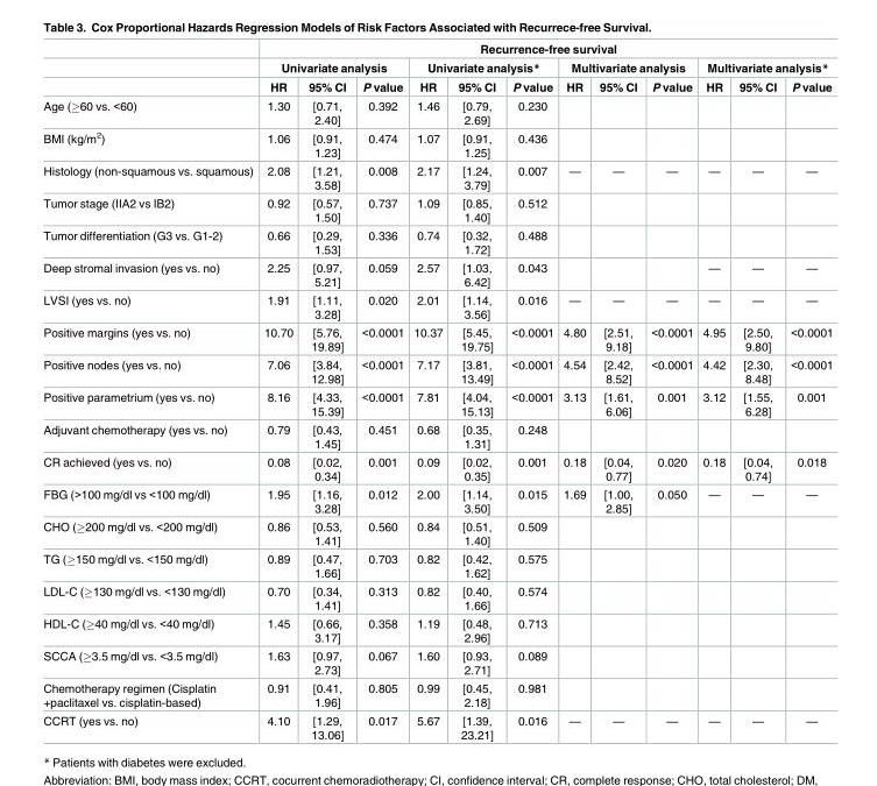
<table><thead><tr><td rowspan="3"></td><td colspan="12">Recurrence-free survival</td></tr><tr><td colspan="3">Univariate analysis</td><td colspan="3">Univariate analysis*</td><td colspan="3">Multivariate analysis</td><td colspan="3">Multivariate analysis*</td></tr><tr><td>HR</td><td>95% CI</td><td>P value</td><td>HR</td><td>95% CI</td><td>P value</td><td>HR</td><td>95% CI</td><td>P value</td><td>HR</td><td>95% CI</td><td>P value</td></tr></thead><tbody><tr><td>Age (≥60 vs. &lt;60)</td><td>1.30</td><td>[0.71, 2.40]</td><td>0.392</td><td>1.46</td><td>[0.79, 2.69]</td><td>0.230</td><td></td><td></td><td></td><td></td><td></td><td></td></tr><tr><td>BMI (kg/m<sup>2</sup>)</td><td>1.06</td><td>[0.91, 1.23]</td><td>0.474</td><td>1.07</td><td>[0.91, 1.25]</td><td>0.436</td><td></td><td></td><td></td><td></td><td></td><td></td></tr><tr><td>Histology (non-squamous vs. squamous)</td><td>2.08</td><td>[1.21, 3.58]</td><td>0.008</td><td>2.17</td><td>[1.24, 3.79]</td><td>0.007</td><td>—</td><td>—</td><td>—</td><td>—</td><td>—</td><td>—</td></tr><tr><td>Tumor stage (IIA2 vs IB2)</td><td>0.92</td><td>[0.57, 1.50]</td><td>0.737</td><td>1.09</td><td>[0.85, 1.40]</td><td>0.512</td><td></td><td></td><td></td><td></td><td></td><td></td></tr><tr><td>Tumor differentiation (G3 vs. G1-2)</td><td>0.66</td><td>[0.29, 1.53]</td><td>0.336</td><td>0.74</td><td>[0.32, 1.72]</td><td>0.488</td><td></td><td></td><td></td><td></td><td></td><td></td></tr><tr><td>Deep stromal invasion (yes vs. no)</td><td>2.25</td><td>[0.97, 5.21]</td><td>0.059</td><td>2.57</td><td>[1.03, 6.42]</td><td>0.043</td><td></td><td></td><td></td><td>—</td><td>—</td><td>—</td></tr><tr><td>LVSI (yes vs. no)</td><td>1.91</td><td>[1.11, 3.28]</td><td>0.020</td><td>2.01</td><td>[1.14, 3.56]</td><td>0.016</td><td>—</td><td>—</td><td>—</td><td>—</td><td>—</td><td>—</td></tr><tr><td>Positive margins (yes vs. no)</td><td>10.70</td><td>[5.76, 19.89]</td><td>&lt;0.0001</td><td>10.37</td><td>[5.45, 19.75]</td><td>&lt;0.0001</td><td>4.80</td><td>[2.51, 9.18]</td><td>&lt;0.0001</td><td>4.95</td><td>[2.50, 9.80]</td><td>&lt;0.0001</td></tr><tr><td>Positive nodes (yes vs. no)</td><td>7.06</td><td>[3.84, 12.98]</td><td>&lt;0.0001</td><td>7.17</td><td>[3.81, 13.49]</td><td>&lt;0.0001</td><td>4.54</td><td>[2.42, 8.52]</td><td>&lt;0.0001</td><td>4.42</td><td>[2.30, 8.48]</td><td>&lt;0.0001</td></tr><tr><td>Positive parametrium (yes vs. no)</td><td>8.16</td><td>[4.33, 15.39]</td><td>&lt;0.0001</td><td>7.81</td><td>[4.04, 15.13]</td><td>&lt;0.0001</td><td>3.13</td><td>[1.61, 6.06]</td><td>0.001</td><td>3.12</td><td>[1.55, 6.28]</td><td>0.001</td></tr><tr><td>Adjuvant chemotherapy (yes vs. no)</td><td>0.79</td><td>[0.43, 1.45]</td><td>0.451</td><td>0.68</td><td>[0.35, 1.31]</td><td>0.248</td><td></td><td></td><td></td><td></td><td></td><td></td></tr><tr><td>CR achieved (yes vs. no)</td><td>0.08</td><td>[0.02, 0.34]</td><td>0.001</td><td>0.09</td><td>[0.02, 0.35]</td><td>0.001</td><td>0.18</td><td>[0.04, 0.77]</td><td>0.020</td><td>0.18</td><td>[0.04, 0.74]</td><td>0.018</td></tr><tr><td>FBG (&gt;100 mg/dl vs &lt;100 mg/dl)</td><td>1.95</td><td>[1.16, 3.28]</td><td>0.012</td><td>2.00</td><td>[1.14, 3.50]</td><td>0.015</td><td>1.69</td><td>[1.00, 2.85]</td><td>0.050</td><td>—</td><td>—</td><td>—</td></tr><tr><td>CHO (≥200 mg/dl vs. &lt;200 mg/dl)</td><td>0.86</td><td>[0.53, 1.41]</td><td>0.560</td><td>0.84</td><td>[0.51, 1.40]</td><td>0.509</td><td></td><td></td><td></td><td></td><td></td><td></td></tr><tr><td>TG (≥150 mg/dl vs. &lt;150 mg/dl)</td><td>0.89</td><td>[0.47, 1.66]</td><td>0.703</td><td>0.82</td><td>[0.42, 1.62]</td><td>0.575</td><td></td><td></td><td></td><td></td><td></td><td></td></tr><tr><td>LDL-C (≥130 mg/dl vs. &lt;130 mg/dl)</td><td>0.70</td><td>[0.34, 1.41]</td><td>0.313</td><td>0.82</td><td>[0.40, 1.66]</td><td>0.574</td><td></td><td></td><td></td><td></td><td></td><td></td></tr><tr><td>HDL-C (≥40 mg/dl vs. &lt;40 mg/dl)</td><td>1.45</td><td>[0.66, 3.17]</td><td>0.358</td><td>1.19</td><td>[0.48, 2.96]</td><td>0.713</td><td></td><td></td><td></td><td></td><td></td><td></td></tr><tr><td>SCCA (≥3.5 mg/dl vs. &lt;3.5 mg/dl)</td><td>1.63</td><td>[0.97, 2.73]</td><td>0.067</td><td>1.60</td><td>[0.93, 2.71]</td><td>0.089</td><td></td><td></td><td></td><td></td><td></td><td></td></tr><tr><td>Chemotherapy regimen (Cisplatin +paclitaxel vs. cisplatin-based)</td><td>0.91</td><td>[0.41, 1.96]</td><td>0.805</td><td>0.99</td><td>[0.45, 2.18]</td><td>0.981</td><td></td><td></td><td></td><td></td><td></td><td></td></tr><tr><td>CCRT (yes vs. no)</td><td>4.10</td><td>[1.29, 13.06]</td><td>0.017</td><td>5.67</td><td>[1.39, 23.21]</td><td>0.016</td><td>—</td><td>—</td><td>—</td><td>—</td><td>—</td><td>—</td></tr></tbody></table>